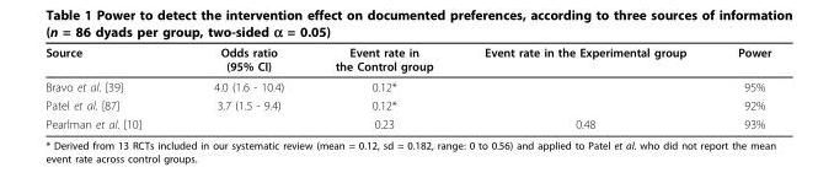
<table><thead><tr><td>Source</td><td>Odds ratio (95% CI)</td><td>Event rate in the Control group</td><td>Event rate in the Experimental group</td><td>Power</td></tr></thead><tbody><tr><td>Bravo et al. [39]</td><td>4.0 (1.6 - 10.4)</td><td>0.12*</td><td></td><td>95%</td></tr><tr><td>Patel et al. [87]</td><td>3.7 (1.5 - 9.4)</td><td>0.12*</td><td></td><td>92%</td></tr><tr><td>Pearlman et al. [10]</td><td></td><td>0.23</td><td>0.48</td><td>93%</td></tr></tbody></table>